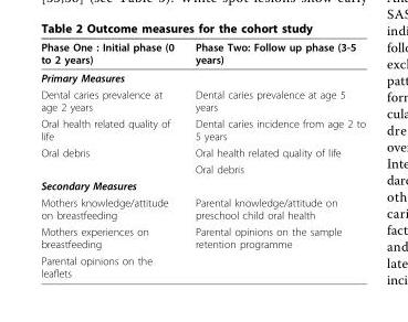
<table><thead><tr><td>Phase One : Initial phase (0 to 2 years)</td><td>Phase Two: Follow up phase (3-5 years)</td></tr></thead><tbody><tr><td colspan="2">Primary Measures</td></tr><tr><td>Dental caries prevalence at age 2 years</td><td>Dental caries prevalence at age 5 years</td></tr><tr><td>Oral health related quality of life</td><td>Dental caries incidence from age 2 to 5 years</td></tr><tr><td rowspan="2">Oral debris</td><td>Oral health related quality of life</td></tr><tr><td>Oral debris</td></tr><tr><td colspan="2">Secondary Measures</td></tr><tr><td>Mothers knowledge/attitude on breastfeeding</td><td>Parental knowledge/attitude on preschool child oral health</td></tr><tr><td>Mothers experiences on breastfeeding</td><td>Parental opinions on the sample retention programme</td></tr><tr><td>Parental opinions on the leaflets</td><td></td></tr></tbody></table>